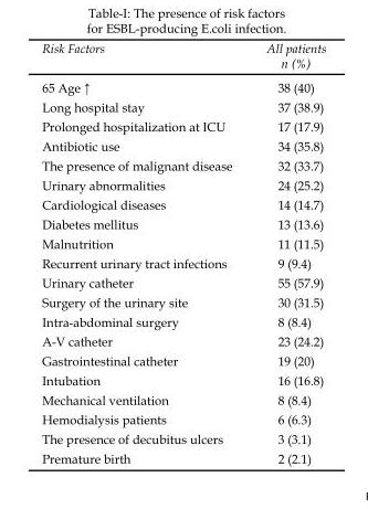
<table><thead><tr><td>Risk Factors</td><td>All patients n (%)</td></tr></thead><tbody><tr><td>65 Age ↑</td><td>38 (40)</td></tr><tr><td>Long hospital stay</td><td>37 (38.9)</td></tr><tr><td>Prolonged hospitalization at ICU</td><td>17 (17.9)</td></tr><tr><td>Antibiotic use</td><td>34 (35.8)</td></tr><tr><td>The presence of malignant disease</td><td>32 (33.7)</td></tr><tr><td>Urinary abnormalities</td><td>24 (25.2)</td></tr><tr><td>Cardiological diseases</td><td>14 (14.7)</td></tr><tr><td>Diabetes mellitus</td><td>13 (13.6)</td></tr><tr><td>Malnutrition</td><td>11 (11.5)</td></tr><tr><td>Recurrent urinary tract infections</td><td>9 (9.4)</td></tr><tr><td>Urinary catheter</td><td>55 (57.9)</td></tr><tr><td>Surgery of the urinary site</td><td>30 (31.5)</td></tr><tr><td>Intra-abdominal surgery</td><td>8 (8.4)</td></tr><tr><td>A-V catheter</td><td>23 (24.2)</td></tr><tr><td>Gastrointestinal catheter</td><td>19 (20)</td></tr><tr><td>Intubation</td><td>16 (16.8)</td></tr><tr><td>Mechanical ventilation</td><td>8 (8.4)</td></tr><tr><td>Hemodialysis patients</td><td>6 (6.3)</td></tr><tr><td>The presence of decubitus ulcers</td><td>3 (3.1)</td></tr><tr><td>Premature birth</td><td>2 (2.1)</td></tr></tbody></table>